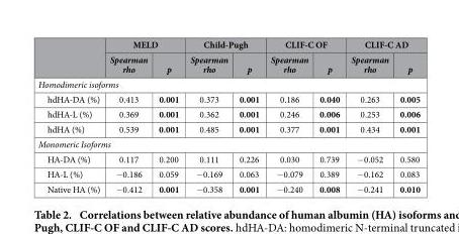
<table><thead><tr><td rowspan="2"></td><td colspan="2">MELD</td><td colspan="2">Child-Pugh</td><td colspan="2">CLIF-C OF</td><td colspan="2">CLIF-C AD</td></tr><tr><td>Spearman rho</td><td>p</td><td>Spearman rho</td><td>p</td><td>Spearman rho</td><td>p</td><td>Spearman rho</td><td>p</td></tr></thead><tbody><tr><td colspan="9">Homodimeric isoforms</td></tr><tr><td>hdHA-DA (%)</td><td>0.413</td><td>0.001</td><td>0.373</td><td>0.001</td><td>0.186</td><td>0.040</td><td>0.263</td><td>0.005</td></tr><tr><td>hdHA-L (%)</td><td>0.369</td><td>0.001</td><td>0.362</td><td>0.001</td><td>0.246</td><td>0.006</td><td>0.253</td><td>0.006</td></tr><tr><td>hdHA (%)</td><td>0.539</td><td>0.001</td><td>0.485</td><td>0.001</td><td>0.377</td><td>0.001</td><td>0.434</td><td>0.001</td></tr><tr><td colspan="9">Monomeric Isoforms</td></tr><tr><td>HA-DA (%)</td><td>0.117</td><td>0.200</td><td>0.111</td><td>0.226</td><td>0.030</td><td>0.739</td><td>− 0.052</td><td>0.580</td></tr><tr><td>HA-L (%)</td><td>− 0.186</td><td>0.059</td><td>− 0.169</td><td>0.063</td><td>− 0.079</td><td>0.389</td><td>− 0.162</td><td>0.083</td></tr><tr><td>Native HA (%)</td><td>− 0.412</td><td>0.001</td><td>− 0.358</td><td>0.001</td><td>− 0.240</td><td>0.008</td><td>− 0.241</td><td>0.010</td></tr></tbody></table>